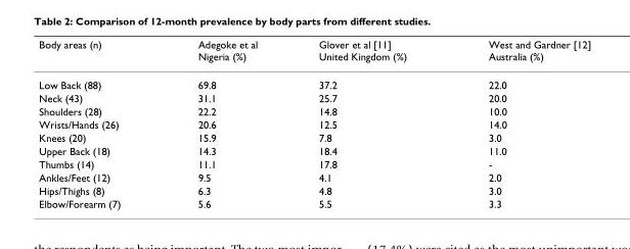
<table><thead><tr><td>Body areas (n)</td><td>Adegoke et al Nigeria (%)</td><td>Glover et al [11] United Kingdom (%)</td><td>West and Gardner [12] Australia (%)</td></tr></thead><tbody><tr><td>Low Back (88)</td><td>69.8</td><td>37.2</td><td>22.0</td></tr><tr><td>Neck (43)</td><td>31.1</td><td>25.7</td><td>20.0</td></tr><tr><td>Shoulders (28)</td><td>22.2</td><td>14.8</td><td>10.0</td></tr><tr><td>Wrists/Hands (26)</td><td>20.6</td><td>12.5</td><td>14.0</td></tr><tr><td>Knees (20)</td><td>15.9</td><td>7.8</td><td>3.0</td></tr><tr><td>Upper Back (18)</td><td>14.3</td><td>18.4</td><td>11.0</td></tr><tr><td>Thumbs (14)</td><td>11.1</td><td>17.8</td><td>-</td></tr><tr><td>Ankles/Feet (12)</td><td>9.5</td><td>4.1</td><td>2.0</td></tr><tr><td>Hips/Thighs (8)</td><td>6.3</td><td>4.8</td><td>3.0</td></tr><tr><td>Elbow/Forearm (7)</td><td>5.6</td><td>5.5</td><td>3.3</td></tr></tbody></table>